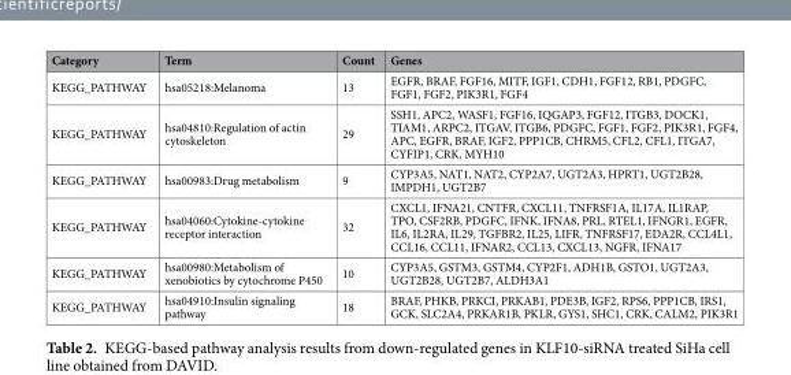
<table><thead><tr><td>Category</td><td>Term</td><td>Count</td><td>Genes</td></tr></thead><tbody><tr><td>KEGG_PATHWAY</td><td>hsa05218:Melanoma</td><td>13</td><td>EGFR, BRAF, FGF16, MITF, IGF1, CDH1, FGF12, RB1, PDGFC, FGF1, FGF2, PIK3R1, FGF4</td></tr><tr><td>KEGG_PATHWAY</td><td>hsa04810:Regulation of actin cytoskeleton</td><td>29</td><td>SSH1, APC2, WASF1, FGF16, IQGAP3, FGF12, ITGB3, DOCK1, TIAM1, ARPC2, ITGAV, ITGB6, PDGFC, FGF1, FGF2, PIK3R1, FGF4, APC, EGFR, BRAF, IGF2, PPP1CB, CHRM5, CFL2, CFL1, ITGA7, CYFIP1, CRK, MYH10</td></tr><tr><td>KEGG_PATHWAY</td><td>hsa00983:Drug metabolism</td><td>9</td><td>CYP3A5, NAT1, NAT2, CYP2A7, UGT2A3, HPRT1, UGT2B28, IMPDH1, UGT2B7</td></tr><tr><td>KEGG_PATHWAY</td><td>hsa04060:Cytokine-cytokine receptor interaction</td><td>32</td><td>CXCL1, IFNA21, CNTFR, CXCL11, TNFRSF1A, IL17A, IL1RAP, TPO, CSF2RB, PDGFC, IFNK, IFNA8, PRL, RTEL1, IFNGR1, EGFR, IL6, IL2RA, IL29, TGFBR2, IL25, LIFR, TNFRSF17, EDA2R, CCL4L1, CCL16, CCL11, IFNAR2, CCL13, CXCL13, NGFR, IFNA17</td></tr><tr><td>KEGG_PATHWAY</td><td>hsa00980:Metabolism of xenobiotics by cytochrome P450</td><td>10</td><td>CYP3A5, GSTM3, GSTM4, CYP2F1, ADH1B, GSTO1, UGT2A3, UGT2B28, UGT2B7, ALDH3A1</td></tr><tr><td>KEGG_PATHWAY</td><td>hsa04910:Insulin signaling pathway</td><td>18</td><td>BRAF, PHKB, PRKCI, PRKAB1, PDE3B, IGF2, RPS6, PPP1CB, IRS1, GCK, SLC2A4, PRKAR1B, PKLR, GYS1, SHC1, CRK, CALM2, PIK3R1</td></tr></tbody></table>